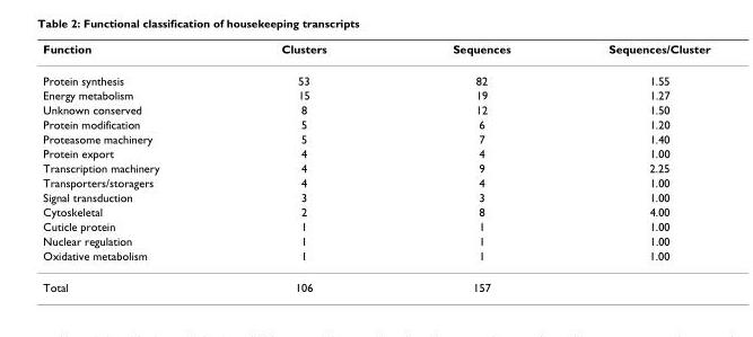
<table><thead><tr><td>Function</td><td>Clusters</td><td>Sequences</td><td>Sequences/Cluster</td></tr></thead><tbody><tr><td>Protein synthesis</td><td>53</td><td>82</td><td>1.55</td></tr><tr><td>Energy metabolism</td><td>15</td><td>19</td><td>1.27</td></tr><tr><td>Unknown conserved</td><td>8</td><td>12</td><td>1.50</td></tr><tr><td>Protein modification</td><td>5</td><td>6</td><td>1.20</td></tr><tr><td>Proteasome machinery</td><td>5</td><td>7</td><td>1.40</td></tr><tr><td>Protein export</td><td>4</td><td>4</td><td>1.00</td></tr><tr><td>Transcription machinery</td><td>4</td><td>9</td><td>2.25</td></tr><tr><td>Transporters/storagers</td><td>4</td><td>4</td><td>1.00</td></tr><tr><td>Signal transduction</td><td>3</td><td>3</td><td>1.00</td></tr><tr><td>Cytoskeletal</td><td>2</td><td>8</td><td>4.00</td></tr><tr><td>Cuticle protein</td><td>1</td><td>1</td><td>1.00</td></tr><tr><td>Nuclear regulation</td><td>1</td><td>1</td><td>1.00</td></tr><tr><td>Oxidative metabolism</td><td>1</td><td>1</td><td>1.00</td></tr><tr><td>Total</td><td>106</td><td>157</td><td></td></tr></tbody></table>